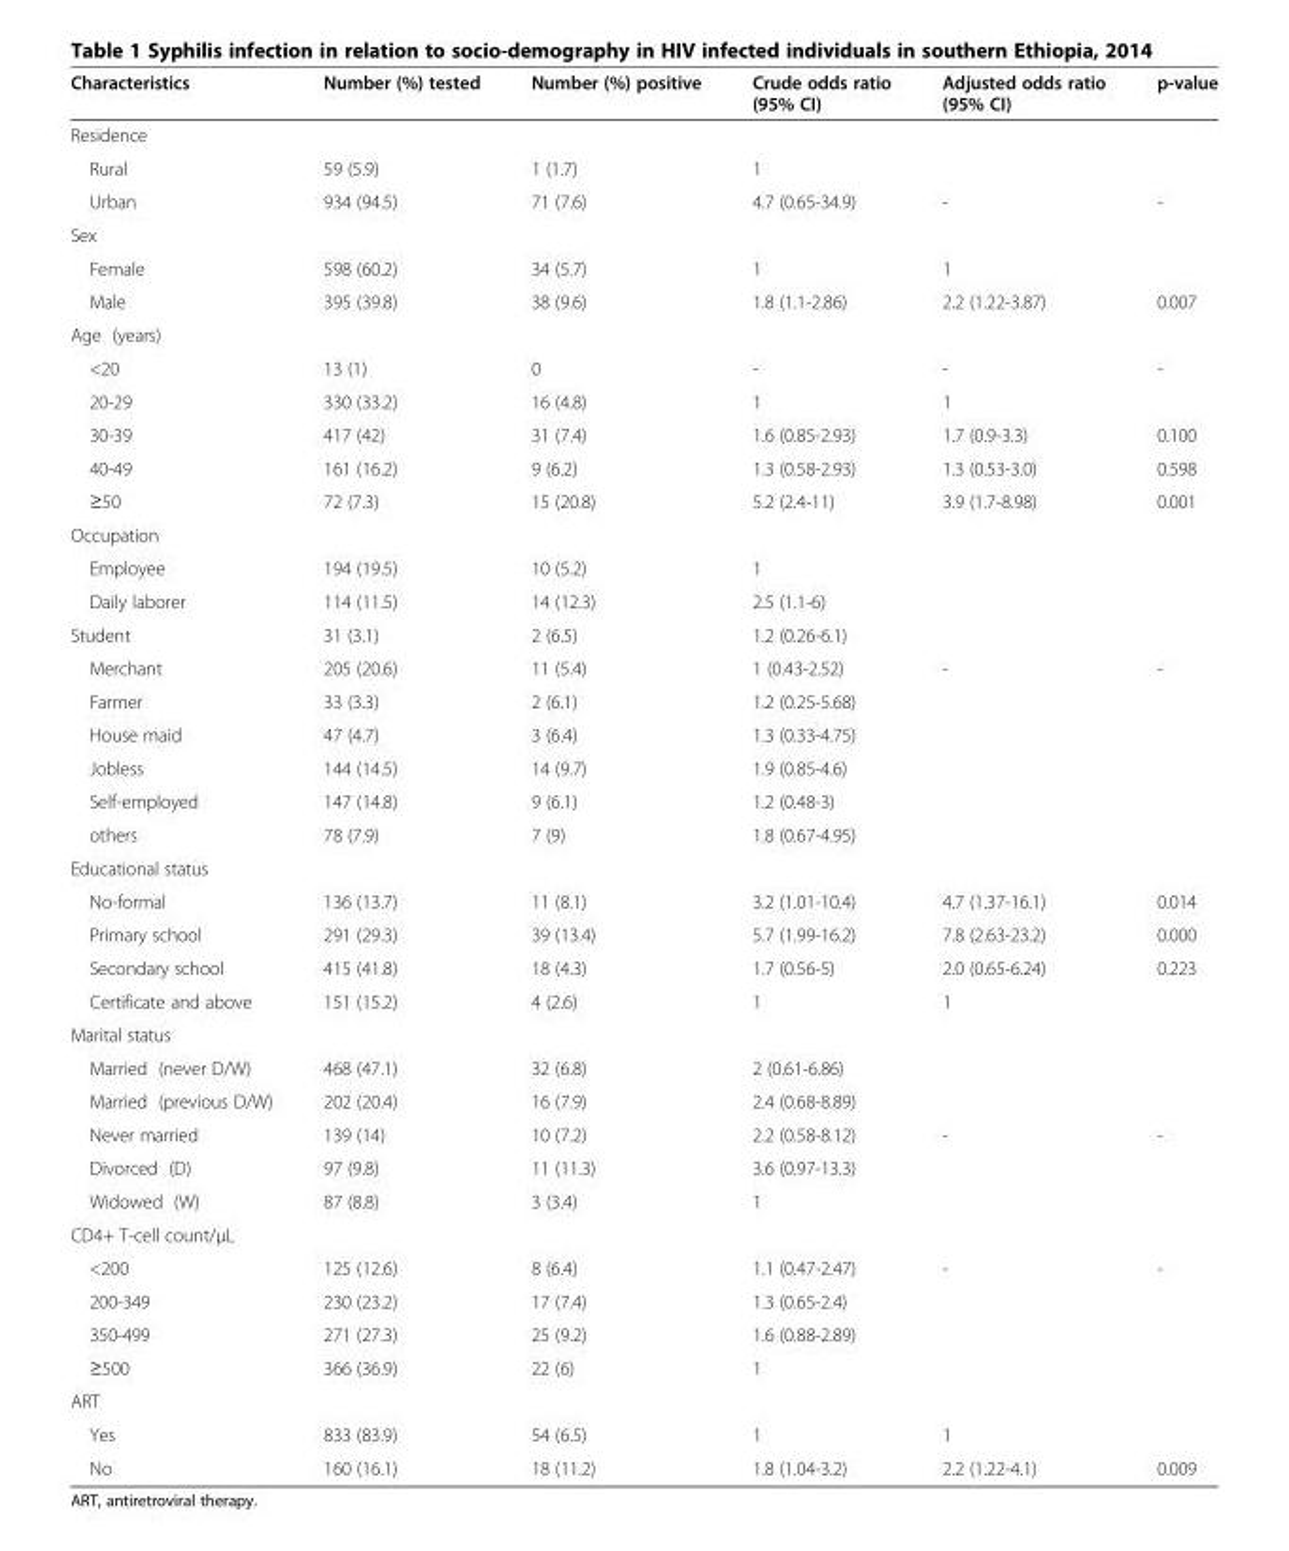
<table><thead><tr><td>Characteristics</td><td>Number (%) tested</td><td>Number (%) positive</td><td>Crude odds ratio (95% CI)</td><td>Adjusted odds ratio (95% CI)</td><td>p-value</td></tr></thead><tbody><tr><td colspan="6">Residence</td></tr><tr><td>Rural</td><td>59 (5.9)</td><td>1 (1.7)</td><td>1</td><td></td><td></td></tr><tr><td>Urban</td><td>934 (94.5)</td><td>71 (7.6)</td><td>4.7 (0.65-34.9)</td><td>-</td><td>-</td></tr><tr><td colspan="6">Sex</td></tr><tr><td>Female</td><td>598 (60.2)</td><td>34 (5.7)</td><td>1</td><td>1</td><td></td></tr><tr><td>Male</td><td>395 (39.8)</td><td>38 (9.6)</td><td>1.8 (1.1-2.86)</td><td>2.2 (1.22-3.87)</td><td>0.007</td></tr><tr><td colspan="6">Age (years)</td></tr><tr><td>&lt;20</td><td>13 (1)</td><td>0</td><td>-</td><td>-</td><td>-</td></tr><tr><td>20-29</td><td>330 (33.2)</td><td>16 (4.8)</td><td>1</td><td>1</td><td></td></tr><tr><td>30-39</td><td>417 (42)</td><td>31 (7.4)</td><td>1.6 (0.85-2.93)</td><td>1.7 (0.9-3.3)</td><td>0.100</td></tr><tr><td>40-49</td><td>161 (16.2)</td><td>9 (6.2)</td><td>1.3 (0.58-2.93)</td><td>1.3 (0.53-3.0)</td><td>0.598</td></tr><tr><td>≥50</td><td>72 (7.3)</td><td>15 (20.8)</td><td>5.2 (2.4-11)</td><td>3.9 (1.7-8.98)</td><td>0.001</td></tr><tr><td colspan="6">Occupation</td></tr><tr><td>Employee</td><td>194 (19.5)</td><td>10 (5.2)</td><td>1</td><td></td><td></td></tr><tr><td>Daily laborer</td><td>114 (11.5)</td><td>14 (12.3)</td><td>2.5 (1.1-6)</td><td></td><td></td></tr><tr><td>Student</td><td>31 (3.1)</td><td>2 (6.5)</td><td>1.2 (0.26-6.1)</td><td></td><td></td></tr><tr><td>Merchant</td><td>205 (20.6)</td><td>11 (5.4)</td><td>1 (0.43-2.52)</td><td>-</td><td>-</td></tr><tr><td>Farmer</td><td>33 (3.3)</td><td>2 (6.1)</td><td>1.2 (0.25-5.68)</td><td></td><td></td></tr><tr><td>House maid</td><td>47 (4.7)</td><td>3 (6.4)</td><td>1.3 (0.33-4.75)</td><td></td><td></td></tr><tr><td>Jobless</td><td>144 (14.5)</td><td>14 (9.7)</td><td>1.9 (0.85-4.6)</td><td></td><td></td></tr><tr><td>Self-employed</td><td>147 (14.8)</td><td>9 (6.1)</td><td>1.2 (0.48-3)</td><td></td><td></td></tr><tr><td>others</td><td>78 (7.9)</td><td>7 (9)</td><td>1.8 (0.67-4.95)</td><td></td><td></td></tr><tr><td colspan="6">Educational status</td></tr><tr><td>No-formal</td><td>136 (13.7)</td><td>11 (8.1)</td><td>3.2 (1.01-10.4)</td><td>4.7 (1.37-16.1)</td><td>0.014</td></tr><tr><td>Primary school</td><td>291 (29.3)</td><td>39 (13.4)</td><td>5.7 (1.99-16.2)</td><td>7.8 (2.63-23.2)</td><td>0.000</td></tr><tr><td>Secondary school</td><td>415 (41.8)</td><td>18 (4.3)</td><td>1.7 (0.56-5)</td><td>2.0 (0.65-6.24)</td><td>0.223</td></tr><tr><td>Certificate and above</td><td>151 (15.2)</td><td>4 (2.6)</td><td>1</td><td>1</td><td></td></tr><tr><td colspan="6">Marital status</td></tr><tr><td>Married (never D/W)</td><td>468 (47.1)</td><td>32 (6.8)</td><td>2 (0.61-6.86)</td><td></td><td></td></tr><tr><td>Married (previous D/W)</td><td>202 (20.4)</td><td>16 (7.9)</td><td>2.4 (0.68-8.89)</td><td></td><td></td></tr><tr><td>Never married</td><td>139 (14)</td><td>10 (7.2)</td><td>2.2 (0.58-8.12)</td><td>-</td><td>-</td></tr><tr><td>Divorced (D)</td><td>97 (9.8)</td><td>11 (11.3)</td><td>3.6 (0.97-13.3)</td><td></td><td></td></tr><tr><td>Widowed (W)</td><td>87 (8.8)</td><td>3 (3.4)</td><td>1</td><td></td><td></td></tr><tr><td colspan="6">CD4+ T-cell count/μL</td></tr><tr><td>&lt;200</td><td>125 (12.6)</td><td>8 (6.4)</td><td>1.1 (0.47-2.47)</td><td>-</td><td>-</td></tr><tr><td>200-349</td><td>230 (23.2)</td><td>17 (7.4)</td><td>1.3 (0.65-2.4)</td><td></td><td></td></tr><tr><td>350-499</td><td>271 (27.3)</td><td>25 (9.2)</td><td>1.6 (0.88-2.89)</td><td></td><td></td></tr><tr><td>≥500</td><td>366 (36.9)</td><td>22 (6)</td><td>1</td><td></td><td></td></tr><tr><td colspan="6">ART</td></tr><tr><td>Yes</td><td>833 (83.9)</td><td>54 (6.5)</td><td>1</td><td>1</td><td></td></tr><tr><td>No</td><td>160 (16.1)</td><td>18 (11.2)</td><td>1.8 (1.04-3.2)</td><td>2.2 (1.22-4.1)</td><td>0.009</td></tr></tbody></table>